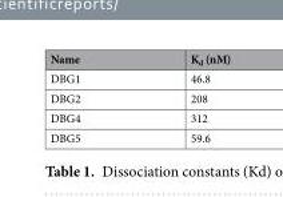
<table><thead><tr><td>Name</td><td>K<sub>d</sub> (nM)</td></tr></thead><tbody><tr><td>DBG1</td><td>46.8</td></tr><tr><td>DBG2</td><td>208</td></tr><tr><td>DBG4</td><td>312</td></tr><tr><td>DBG5</td><td>59.6</td></tr></tbody></table>